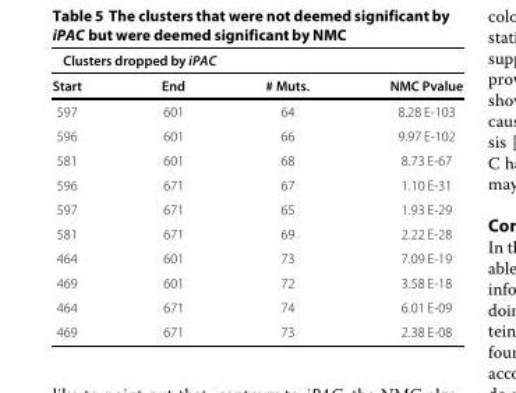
<table><thead><tr><td colspan="3">Clusters dropped by iPAC</td><td rowspan="2">NMC Pvalue</td></tr><tr><td>Start</td><td>End</td><td># Muts.</td></tr></thead><tbody><tr><td>597</td><td>601</td><td>64</td><td>8.28 E-103</td></tr><tr><td>596</td><td>601</td><td>66</td><td>9.97 E-102</td></tr><tr><td>581</td><td>601</td><td>68</td><td>8.73 E-67</td></tr><tr><td>596</td><td>671</td><td>67</td><td>1.10 E-31</td></tr><tr><td>597</td><td>671</td><td>65</td><td>1.93 E-29</td></tr><tr><td>581</td><td>671</td><td>69</td><td>2.22 E-28</td></tr><tr><td>464</td><td>601</td><td>73</td><td>7.09 E-19</td></tr><tr><td>469</td><td>601</td><td>72</td><td>3.58 E-18</td></tr><tr><td>464</td><td>671</td><td>74</td><td>6.01 E-09</td></tr><tr><td>469</td><td>671</td><td>73</td><td>2.38 E-08</td></tr></tbody></table>